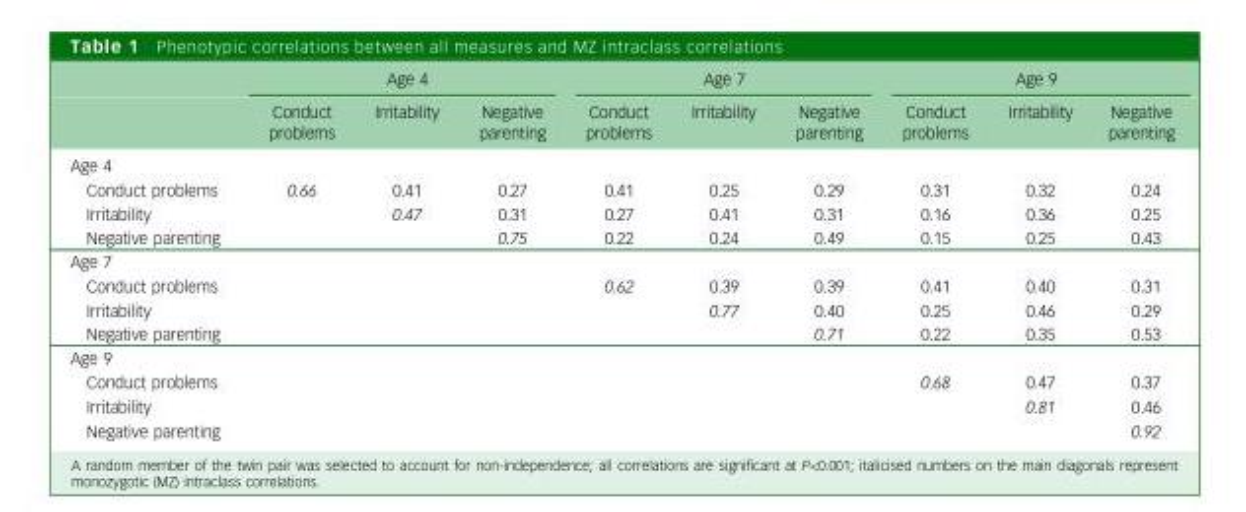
<table><thead><tr><td rowspan="2"></td><td colspan="3">Age 4</td><td colspan="3">Age 7</td><td colspan="3">Age 9</td></tr><tr><td>Conduct problems</td><td>Irritability</td><td>Negative parenting</td><td>Conduct problems</td><td>Irritability</td><td>Negative parenting</td><td>Conduct problems</td><td>Irritability</td><td>Negative parenting</td></tr></thead><tbody><tr><td colspan="10">Age 4</td></tr><tr><td>Conduct problems</td><td>0.66</td><td>0.41</td><td>0.27</td><td>0.41</td><td>0.25</td><td>0.29</td><td>0.31</td><td>0.32</td><td>0.24</td></tr><tr><td>Irritability</td><td></td><td>0.47</td><td>0.31</td><td>0.27</td><td>0.41</td><td>0.31</td><td>0.16</td><td>0.36</td><td>0.25</td></tr><tr><td>Negative parenting</td><td></td><td></td><td>0.75</td><td>0.22</td><td>0.24</td><td>0.49</td><td>0.15</td><td>0.25</td><td>0.43</td></tr><tr><td colspan="10">Age 7</td></tr><tr><td>Conduct problems</td><td></td><td></td><td></td><td>0.62</td><td>0.39</td><td>0.39</td><td>0.41</td><td>0.40</td><td>0.31</td></tr><tr><td>Irritability</td><td></td><td></td><td></td><td></td><td>0.77</td><td>0.40</td><td>0.25</td><td>0.46</td><td>0.29</td></tr><tr><td>Negative parenting</td><td></td><td></td><td></td><td></td><td></td><td>0.71</td><td>0.22</td><td>0.35</td><td>0.53</td></tr><tr><td colspan="10">Age 9</td></tr><tr><td>Conduct problems</td><td></td><td></td><td></td><td></td><td></td><td></td><td>0.68</td><td>0.47</td><td>0.37</td></tr><tr><td>Irritability</td><td></td><td></td><td></td><td></td><td></td><td></td><td></td><td>0.81</td><td>0.46</td></tr><tr><td>Negative parenting</td><td></td><td></td><td></td><td></td><td></td><td></td><td></td><td></td><td>0.92</td></tr></tbody></table>